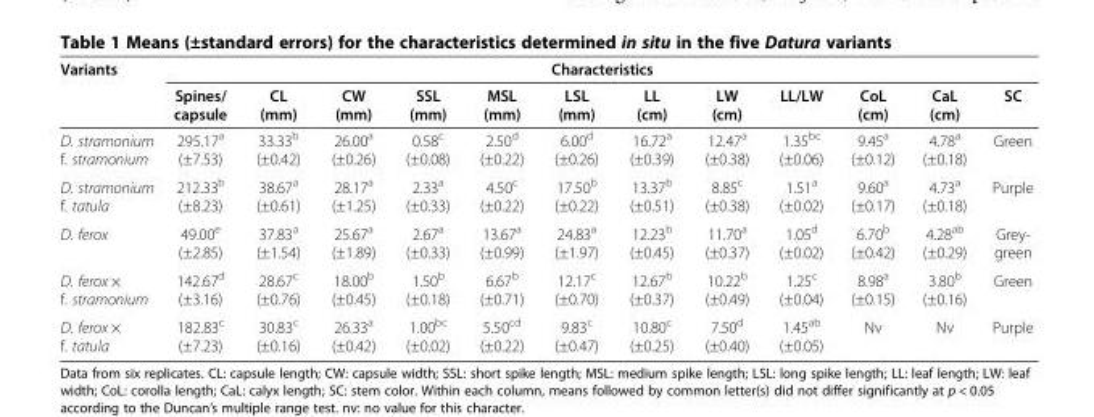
<table><thead><tr><td rowspan="2">Variants</td><td colspan="12">Characteristics</td></tr><tr><td>Spines/ capsule</td><td>CL (mm)</td><td>CW (mm)</td><td>SSL (mm)</td><td>MSL (mm)</td><td>LSL (mm)</td><td>LL (cm)</td><td>LW (cm)</td><td>LL/LW</td><td>CoL (cm)</td><td>CaL (cm)</td><td>SC</td></tr></thead><tbody><tr><td>D. stramonium f. stramonium</td><td>295.17<sup>a</sup> (±7.53)</td><td>33.33<sup>b</sup> (±0.42)</td><td>26.00<sup>a</sup> (±0.26)</td><td>0.58<sup>c</sup> (±0.08)</td><td>2.50<sup>d</sup> (±0.22)</td><td>6.00<sup>d</sup> (±0.26)</td><td>16.72<sup>a</sup> (±0.39)</td><td>12.47<sup>a</sup> (±0.38)</td><td>1.35<sup>bc</sup> (±0.06)</td><td>9.45<sup>a</sup> (±0.12)</td><td>4.78<sup>a</sup> (±0.18)</td><td>Green</td></tr><tr><td>D. stramonium f. tatula</td><td>212.33<sup>b</sup> (±8.23)</td><td>38.67<sup>a</sup> (±0.61)</td><td>28.17<sup>a</sup> (±1.25)</td><td>2.33<sup>a</sup> (±0.33)</td><td>4.50<sup>c</sup> (±0.22)</td><td>17.50<sup>b</sup> (±0.22)</td><td>13.37<sup>b</sup> (±0.51)</td><td>8.85<sup>c</sup> (±0.38)</td><td>1.51<sup>a</sup> (±0.02)</td><td>9.60<sup>a</sup> (±0.17)</td><td>4.73<sup>a</sup> (±0.18)</td><td>Purple</td></tr><tr><td>D. ferox</td><td>49.00<sup>e</sup> (±2.85)</td><td>37.83<sup>a</sup> (±1.54)</td><td>25.67<sup>a</sup> (±1.89)</td><td>2.67<sup>a</sup> (±0.33)</td><td>13.67<sup>a</sup> (±0.99)</td><td>24.83<sup>a</sup> (±1.97)</td><td>12.23<sup>b</sup> (±0.45)</td><td>11.70<sup>a</sup> (±0.37)</td><td>1.05<sup>d</sup> (±0.02)</td><td>6.70<sup>b</sup> (±0.42)</td><td>4.28<sup>ab</sup> (±0.29)</td><td>Grey- green</td></tr><tr><td>D. ferox × f. stramonium</td><td>142.67<sup>d</sup> (±3.16)</td><td>28.67<sup>c</sup> (±0.76)</td><td>18.00<sup>b</sup> (±0.45)</td><td>1.50<sup>b</sup> (±0.18)</td><td>6.67<sup>b</sup> (±0.71)</td><td>12.17<sup>c</sup> (±0.70)</td><td>12.67<sup>b</sup> (±0.37)</td><td>10.22<sup>b</sup> (±0.49)</td><td>1.25<sup>c</sup> (±0.04)</td><td>8.98<sup>a</sup> (±0.15)</td><td>3.80<sup>b</sup> (±0.16)</td><td>Green</td></tr><tr><td>D. ferox × f. tatula</td><td>182.83<sup>c</sup> (±7.23)</td><td>30.83<sup>c</sup> (±0.16)</td><td>26.33<sup>a</sup> (±0.42)</td><td>1.00<sup>bc</sup> (±0.02)</td><td>5.50<sup>cd</sup> (±0.22)</td><td>9.83<sup>c</sup> (±0.47)</td><td>10.80<sup>c</sup> (±0.25)</td><td>7.50<sup>d</sup> (±0.40)</td><td>1.45<sup>ab</sup> (±0.05)</td><td>Nv</td><td>Nv</td><td>Purple</td></tr></tbody></table>